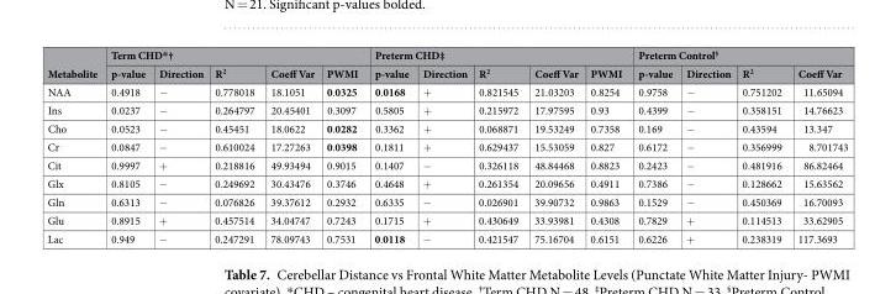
<table><thead><tr><td rowspan="2">Metabolite</td><td colspan="5">Term CHD*†</td><td colspan="5">Preterm CHD‡</td><td colspan="4">Preterm Control<sup>§</sup></td></tr><tr><td>p-value</td><td>Direction</td><td>R<sup>2</sup></td><td>Coeff Var</td><td>PWMI</td><td>p-value</td><td>Direction</td><td>R<sup>2</sup></td><td>Coeff Var</td><td>PWMI</td><td>p-value</td><td>Direction</td><td>R<sup>2</sup></td><td>Coeff Var</td></tr></thead><tbody><tr><td>NAA</td><td>0.4918</td><td>−</td><td>0.778018</td><td>18.1051</td><td>0.0325</td><td>0.0168</td><td>+</td><td>0.821545</td><td>21.03203</td><td>0.8254</td><td>0.9758</td><td>−</td><td>0.751202</td><td>11.65094</td></tr><tr><td>Ins</td><td>0.0237</td><td>−</td><td>0.264797</td><td>20.45401</td><td>0.3097</td><td>0.5805</td><td>+</td><td>0.215972</td><td>17.97595</td><td>0.93</td><td>0.4399</td><td>−</td><td>0.358151</td><td>14.76623</td></tr><tr><td>Cho</td><td>0.0523</td><td>−</td><td>0.45451</td><td>18.0622</td><td>0.0282</td><td>0.3362</td><td>+</td><td>0.068871</td><td>19.53249</td><td>0.7358</td><td>0.169</td><td>−</td><td>0.43594</td><td>13.347</td></tr><tr><td>Cr</td><td>0.0847</td><td>−</td><td>0.610024</td><td>17.27263</td><td>0.0398</td><td>0.1811</td><td>+</td><td>0.629437</td><td>15.53059</td><td>0.827</td><td>0.6172</td><td>−</td><td>0.356999</td><td>8.701743</td></tr><tr><td>Cit</td><td>0.9997</td><td>+</td><td>0.218816</td><td>49.93494</td><td>0.9015</td><td>0.1407</td><td>−</td><td>0.326118</td><td>48.84468</td><td>0.8823</td><td>0.2423</td><td>−</td><td>0.481916</td><td>86.82464</td></tr><tr><td>Glx</td><td>0.8105</td><td>−</td><td>0.249692</td><td>30.43476</td><td>0.3746</td><td>0.4648</td><td>+</td><td>0.261354</td><td>20.09656</td><td>0.4911</td><td>0.7386</td><td>−</td><td>0.128662</td><td>15.63562</td></tr><tr><td>Gln</td><td>0.6313</td><td>−</td><td>0.076826</td><td>39.37612</td><td>0.2932</td><td>0.6335</td><td>−</td><td>0.026901</td><td>39.90732</td><td>0.9863</td><td>0.1529</td><td>−</td><td>0.450369</td><td>16.70093</td></tr><tr><td>Glu</td><td>0.8915</td><td>+</td><td>0.457514</td><td>34.04747</td><td>0.7243</td><td>0.1715</td><td>+</td><td>0.430649</td><td>33.93981</td><td>0.4308</td><td>0.7829</td><td>+</td><td>0.114513</td><td>33.62905</td></tr><tr><td>Lac</td><td>0.949</td><td>−</td><td>0.247291</td><td>78.09743</td><td>0.7531</td><td>0.0118</td><td>−</td><td>0.421547</td><td>75.16704</td><td>0.6151</td><td>0.6226</td><td>+</td><td>0.238319</td><td>117.3693</td></tr></tbody></table>